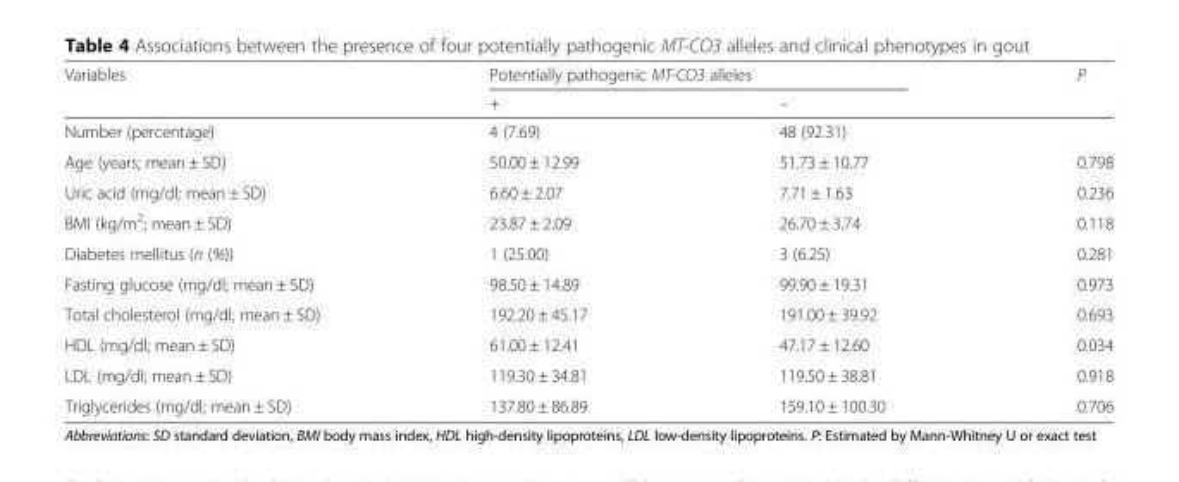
<table><thead><tr><td rowspan="2">Variables</td><td colspan="2">Potentially pathogenic MT-CO3 alleles</td><td rowspan="2">P</td></tr><tr><td>+</td><td>–</td></tr></thead><tbody><tr><td>Number (percentage)</td><td>4 (7.69)</td><td>48 (92.31)</td><td></td></tr><tr><td>Age (years; mean ± SD)</td><td>50.00 ± 12.99</td><td>51.73 ± 10.77</td><td>0.798</td></tr><tr><td>Uric acid (mg/dl; mean ± SD)</td><td>6.60 ± 2.07</td><td>7.71 ± 1.63</td><td>0.236</td></tr><tr><td>BMI (kg/m<sup>2</sup>; mean ± SD)</td><td>23.87 ± 2.09</td><td>26.70 ± 3.74</td><td>0.118</td></tr><tr><td>Diabetes mellitus (n (%))</td><td>1 (25.00)</td><td>3 (6.25)</td><td>0.281</td></tr><tr><td>Fasting glucose (mg/dl; mean ± SD)</td><td>98.50 ± 14.89</td><td>99.90 ± 19.31</td><td>0.973</td></tr><tr><td>Total cholesterol (mg/dl; mean ± SD)</td><td>192.20 ± 45.17</td><td>191.00 ± 39.92</td><td>0.693</td></tr><tr><td>HDL (mg/dl; mean ± SD)</td><td>61.00 ± 12.41</td><td>47.17 ± 12.60</td><td>0.034</td></tr><tr><td>LDL (mg/dl; mean ± SD)</td><td>119.30 ± 34.81</td><td>119.50 ± 38.81</td><td>0.918</td></tr><tr><td>Triglycerides (mg/dl; mean ± SD)</td><td>137.80 ± 86.89</td><td>159.10 ± 100.30</td><td>0.706</td></tr></tbody></table>